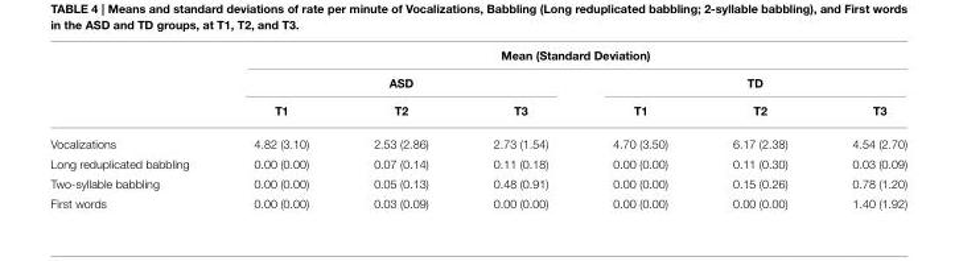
<table><thead><tr><td rowspan="3"></td><td colspan="6">Mean (Standard Deviation)</td></tr><tr><td colspan="3">ASD</td><td colspan="3">TD</td></tr><tr><td>T1</td><td>T2</td><td>T3</td><td>T1</td><td>T2</td><td>T3</td></tr></thead><tbody><tr><td>Vocalizations</td><td>4.82 (3.10)</td><td>2.53 (2.86)</td><td>2.73 (1.54)</td><td>4.70 (3.50)</td><td>6.17 (2.38)</td><td>4.54 (2.70)</td></tr><tr><td>Long reduplicated babbling</td><td>0.00 (0.00)</td><td>0.07 (0.14)</td><td>0.11 (0.18)</td><td>0.00 (0.00)</td><td>0.11 (0.30)</td><td>0.03 (0.09)</td></tr><tr><td>Two-syllable babbling</td><td>0.00 (0.00)</td><td>0.05 (0.13)</td><td>0.48 (0.91)</td><td>0.00 (0.00)</td><td>0.15 (0.26)</td><td>0.78 (1.20)</td></tr><tr><td>First words</td><td>0.00 (0.00)</td><td>0.03 (0.09)</td><td>0.00 (0.00)</td><td>0.00 (0.00)</td><td>0.00 (0.00)</td><td>1.40 (1.92)</td></tr></tbody></table>